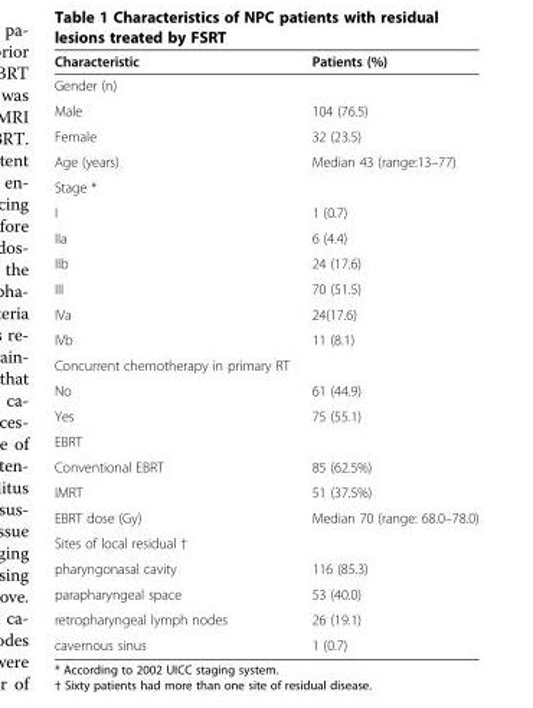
<table><thead><tr><td>Characteristic</td><td>Patients (%)</td></tr></thead><tbody><tr><td colspan="2">Gender (n)</td></tr><tr><td>Male</td><td>104 (76.5)</td></tr><tr><td>Female</td><td>32 (23.5)</td></tr><tr><td>Age (years)</td><td>Median 43 (range:13–77)</td></tr><tr><td colspan="2">Stage *</td></tr><tr><td>I</td><td>1 (0.7)</td></tr><tr><td>IIa</td><td>6 (4.4)</td></tr><tr><td>IIb</td><td>24 (17.6)</td></tr><tr><td>III</td><td>70 (51.5)</td></tr><tr><td>IVa</td><td>24(17.6)</td></tr><tr><td>IVb</td><td>11 (8.1)</td></tr><tr><td colspan="2">Concurrent chemotherapy in primary RT</td></tr><tr><td>No</td><td>61 (44.9)</td></tr><tr><td>Yes</td><td>75 (55.1)</td></tr><tr><td colspan="2">EBRT</td></tr><tr><td>Conventional EBRT</td><td>85 (62.5%)</td></tr><tr><td>IMRT</td><td>51 (37.5%)</td></tr><tr><td>EBRT dose (Gy)</td><td>Median 70 (range: 68.0–78.0)</td></tr><tr><td colspan="2">Sites of local residual †</td></tr><tr><td>pharyngonasal cavity</td><td>116 (85.3)</td></tr><tr><td>parapharyngeal space</td><td>53 (40.0)</td></tr><tr><td>retropharyngeal lymph nodes</td><td>26 (19.1)</td></tr><tr><td>cavernous sinus</td><td>1 (0.7)</td></tr></tbody></table>